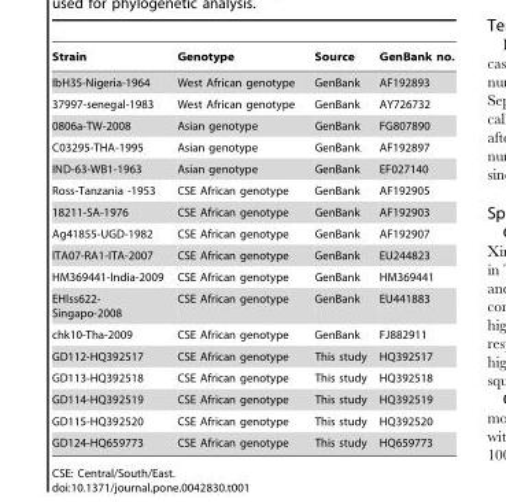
<table><thead><tr><td>Strain</td><td>Genotype</td><td>Source</td><td>GenBank no.</td></tr></thead><tbody><tr><td>IbH35-Nigeria-1964</td><td>West African genotype</td><td>GenBank</td><td>AF192893</td></tr><tr><td>37997-senegal-1983</td><td>West African genotype</td><td>GenBank</td><td>AY726732</td></tr><tr><td>0806a-TW-2008</td><td>Asian genotype</td><td>GenBank</td><td>FG807890</td></tr><tr><td>C03295-THA-1995</td><td>Asian genotype</td><td>GenBank</td><td>AF192897</td></tr><tr><td>IND-63-WB1-1963</td><td>Asian genotype</td><td>GenBank</td><td>EF027140</td></tr><tr><td>Ross-Tanzania -1953</td><td>CSE African genotype</td><td>GenBank</td><td>AF192905</td></tr><tr><td>18211-SA-1976</td><td>CSE African genotype</td><td>GenBank</td><td>AF192903</td></tr><tr><td>Ag41855-UGD-1982</td><td>CSE African genotype</td><td>GenBank</td><td>AF192907</td></tr><tr><td>ITA07-RA1-ITA-2007</td><td>CSE African genotype</td><td>GenBank</td><td>EU244823</td></tr><tr><td>HM369441-India-2009</td><td>CSE African genotype</td><td>GenBank</td><td>HM369441</td></tr><tr><td>EHIss622- Singapo-2008</td><td>CSE African genotype</td><td>GenBank</td><td>EU441883</td></tr><tr><td>chk10-Tha-2009</td><td>CSE African genotype</td><td>GenBank</td><td>FJ882911</td></tr><tr><td>GD112-HQ392517</td><td>CSE African genotype</td><td>This study</td><td>HQ392517</td></tr><tr><td>GD113-HQ392518</td><td>CSE African genotype</td><td>This study</td><td>HQ392518</td></tr><tr><td>GD114-HQ392519</td><td>CSE African genotype</td><td>This study</td><td>HQ392519</td></tr><tr><td>GD115-HQ392520</td><td>CSE African genotype</td><td>This study</td><td>HQ392520</td></tr><tr><td>GD124-HQ659773</td><td>CSE African genotype</td><td>This study</td><td>HQ659773</td></tr></tbody></table>